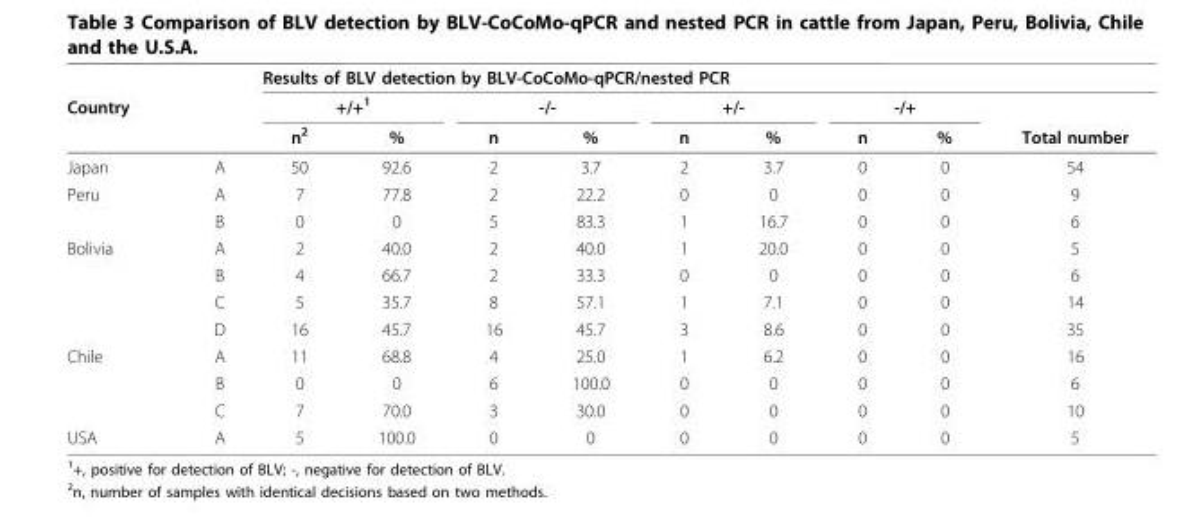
<table><thead><tr><td rowspan="3">Country</td><td rowspan="3"></td><td colspan="9">Results of BLV detection by BLV-CoCoMo-qPCR/nested PCR</td></tr><tr><td colspan="2">+/+<sup>1</sup></td><td colspan="2">-/-</td><td colspan="2">+/-</td><td colspan="2">-/+</td><td rowspan="2">Total number</td></tr><tr><td>n<sup>2</sup></td><td>%</td><td>n</td><td>%</td><td>n</td><td>%</td><td>n</td><td>%</td></tr></thead><tbody><tr><td>Japan</td><td>A</td><td>50</td><td>92.6</td><td>2</td><td>3.7</td><td>2</td><td>3.7</td><td>0</td><td>0</td><td>54</td></tr><tr><td rowspan="2">Peru</td><td>A</td><td>7</td><td>77.8</td><td>2</td><td>22.2</td><td>0</td><td>0</td><td>0</td><td>0</td><td>9</td></tr><tr><td>B</td><td>0</td><td>0</td><td>5</td><td>83.3</td><td>1</td><td>16.7</td><td>0</td><td>0</td><td>6</td></tr><tr><td rowspan="4">Bolivia</td><td>A</td><td>2</td><td>40.0</td><td>2</td><td>40.0</td><td>1</td><td>20.0</td><td>0</td><td>0</td><td>5</td></tr><tr><td>B</td><td>4</td><td>66.7</td><td>2</td><td>33.3</td><td>0</td><td>0</td><td>0</td><td>0</td><td>6</td></tr><tr><td>C</td><td>5</td><td>35.7</td><td>8</td><td>57.1</td><td>1</td><td>7.1</td><td>0</td><td>0</td><td>14</td></tr><tr><td>D</td><td>16</td><td>45.7</td><td>16</td><td>45.7</td><td>3</td><td>8.6</td><td>0</td><td>0</td><td>35</td></tr><tr><td rowspan="3">Chile</td><td>A</td><td>11</td><td>68.8</td><td>4</td><td>25.0</td><td>1</td><td>6.2</td><td>0</td><td>0</td><td>16</td></tr><tr><td>B</td><td>0</td><td>0</td><td>6</td><td>100.0</td><td>0</td><td>0</td><td>0</td><td>0</td><td>6</td></tr><tr><td>C</td><td>7</td><td>70.0</td><td>3</td><td>30.0</td><td>0</td><td>0</td><td>0</td><td>0</td><td>10</td></tr><tr><td>USA</td><td>A</td><td>5</td><td>100.0</td><td>0</td><td>0</td><td>0</td><td>0</td><td>0</td><td>0</td><td>5</td></tr></tbody></table>